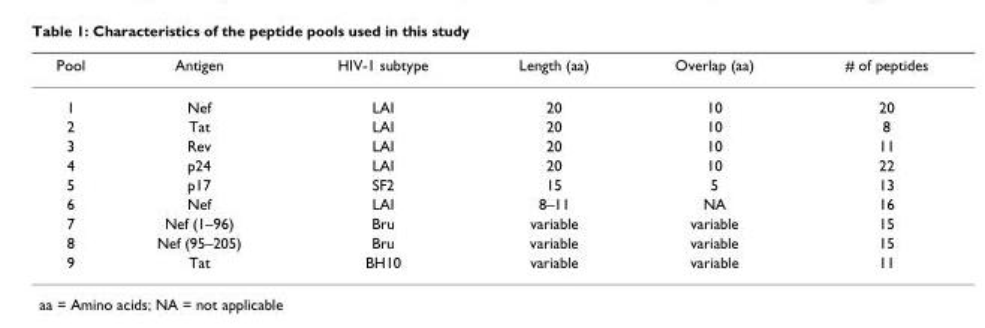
<table><thead><tr><td>Pool</td><td>Antigen</td><td>HIV-1 subtype</td><td>Length (aa)</td><td>Overlap (aa)</td><td># of peptides</td></tr></thead><tbody><tr><td>1</td><td>Nef</td><td>LAI</td><td>20</td><td>10</td><td>20</td></tr><tr><td>2</td><td>Tat</td><td>LAI</td><td>20</td><td>10</td><td>8</td></tr><tr><td>3</td><td>Rev</td><td>LAI</td><td>20</td><td>10</td><td>11</td></tr><tr><td>4</td><td>p24</td><td>LAI</td><td>20</td><td>10</td><td>22</td></tr><tr><td>5</td><td>p17</td><td>SF2</td><td>15</td><td>5</td><td>13</td></tr><tr><td>6</td><td>Nef</td><td>LAI</td><td>8–11</td><td>NA</td><td>16</td></tr><tr><td>7</td><td>Nef (1–96)</td><td>Bru</td><td>variable</td><td>variable</td><td>15</td></tr><tr><td>8</td><td>Nef (95–205)</td><td>Bru</td><td>variable</td><td>variable</td><td>15</td></tr><tr><td>9</td><td>Tat</td><td>BH10</td><td>variable</td><td>variable</td><td>11</td></tr></tbody></table>